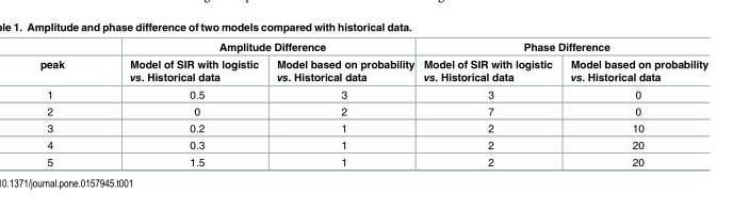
<table><thead><tr><td rowspan="2">peak</td><td colspan="2">Amplitude Difference</td><td colspan="2">Phase Difference</td></tr><tr><td>Model of SIR with logistic vs. Historical data</td><td>Model based on probability vs. Historical data</td><td>Model of SIR with logistic vs. Historical data</td><td>Model based on probability vs. Historical data</td></tr></thead><tbody><tr><td>1</td><td>0.5</td><td>3</td><td>3</td><td>0</td></tr><tr><td>2</td><td>0</td><td>2</td><td>7</td><td>0</td></tr><tr><td>3</td><td>0.2</td><td>1</td><td>2</td><td>10</td></tr><tr><td>4</td><td>0.3</td><td>1</td><td>2</td><td>20</td></tr><tr><td>5</td><td>1.5</td><td>1</td><td>2</td><td>20</td></tr></tbody></table>